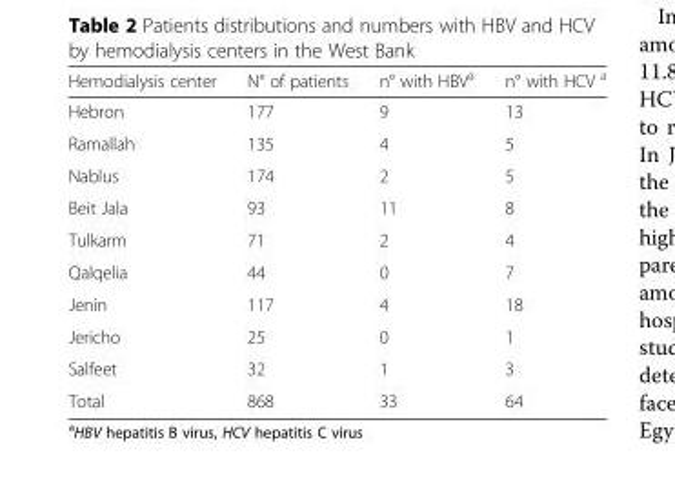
<table><thead><tr><td>Hemodialysis center</td><td>N° of patients</td><td>n° with HBV<sup>a</sup></td><td>n° with HCV <sup>a</sup></td></tr></thead><tbody><tr><td>Hebron</td><td>177</td><td>9</td><td>13</td></tr><tr><td>Ramallah</td><td>135</td><td>4</td><td>5</td></tr><tr><td>Nablus</td><td>174</td><td>2</td><td>5</td></tr><tr><td>Beit Jala</td><td>93</td><td>11</td><td>8</td></tr><tr><td>Tulkarm</td><td>71</td><td>2</td><td>4</td></tr><tr><td>Qalqelia</td><td>44</td><td>0</td><td>7</td></tr><tr><td>Jenin</td><td>117</td><td>4</td><td>18</td></tr><tr><td>Jericho</td><td>25</td><td>0</td><td>1</td></tr><tr><td>Salfeet</td><td>32</td><td>1</td><td>3</td></tr><tr><td>Total</td><td>868</td><td>33</td><td>64</td></tr></tbody></table>